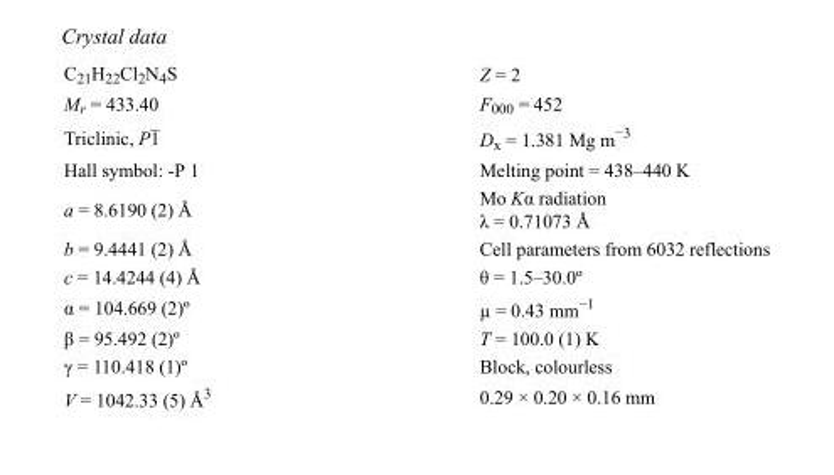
<table><tbody><tr><td>C<sub>21</sub>H<sub>22</sub>Cl<sub>2</sub>N<sub>4</sub>S</td><td>Z = 2</td></tr><tr><td>M<sub>r</sub> = 433.40</td><td>F<sub>000</sub> = 452</td></tr><tr><td>Triclinic, P1</td><td>D<sub>x</sub> = 1.381 Mg m<sup>−3</sup></td></tr><tr><td>Hall symbol: -P 1</td><td>Melting point = 438–440 K</td></tr><tr><td>a = 8.6190 (2) Å</td><td>Mo Kα radiation λ = 0.71073 Å</td></tr><tr><td>b = 9.4441 (2) Å</td><td>Cell parameters from 6032 reflections</td></tr><tr><td>c = 14.4244 (4) Å</td><td>θ = 1.5–30.0º</td></tr><tr><td>α = 104.669 (2)º</td><td>µ = 0.43 mm<sup>−1</sup></td></tr><tr><td>β = 95.492 (2)º</td><td>T = 100.0 (1) K</td></tr><tr><td>γ = 110.418 (1)º</td><td>Block, colourless</td></tr><tr><td>V = 1042.33 (5) Å<sup>3</sup></td><td>0.29 × 0.20 × 0.16 mm</td></tr></tbody></table>